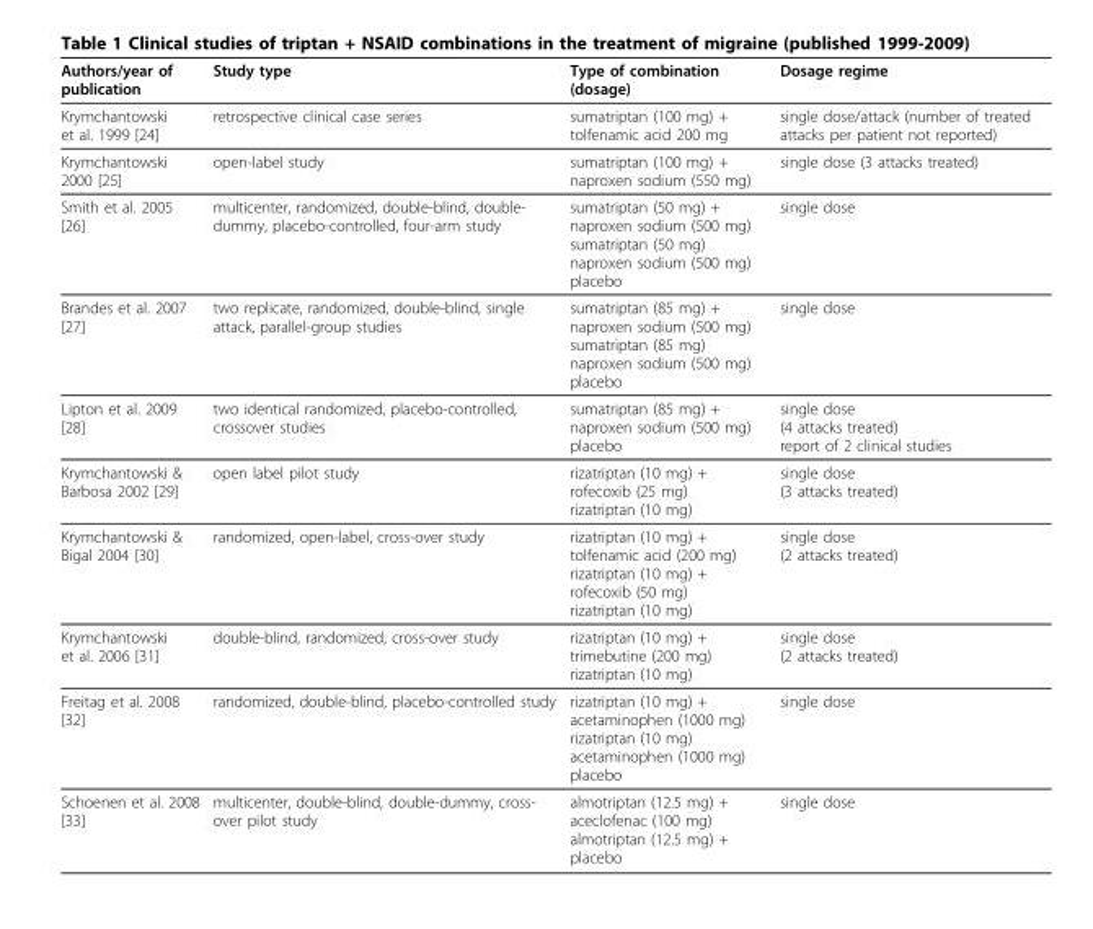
<table><thead><tr><td>Authors/year of publication</td><td>Study type</td><td>Type of combination (dosage)</td><td>Dosage regime</td></tr></thead><tbody><tr><td>Krymchantowski et al. 1999 [24]</td><td>retrospective clinical case series</td><td>sumatriptan (100 mg) + tolfenamic acid 200 mg</td><td>single dose/attack (number of treated attacks per patient not reported)</td></tr><tr><td>Krymchantowski 2000 [25]</td><td>open-label study</td><td>sumatriptan (100 mg) + naproxen sodium (550 mg)</td><td>single dose (3 attacks treated)</td></tr><tr><td>Smith et al. 2005 [26]</td><td>multicenter, randomized, double-blind, double- dummy, placebo-controlled, four-arm study</td><td>sumatriptan (50 mg) + naproxen sodium (500 mg) sumatriptan (50 mg) naproxen sodium (500 mg) placebo</td><td>single dose</td></tr><tr><td>Brandes et al. 2007 [27]</td><td>two replicate, randomized, double-blind, single attack, parallel-group studies</td><td>sumatriptan (85 mg) + naproxen sodium (500 mg) sumatriptan (85 mg) naproxen sodium (500 mg) placebo</td><td>single dose</td></tr><tr><td>Lipton et al. 2009 [28]</td><td>two identical randomized, placebo-controlled, crossover studies</td><td>sumatriptan (85 mg) + naproxen sodium (500 mg) placebo</td><td>single dose (4 attacks treated) report of 2 clinical studies</td></tr><tr><td>Krymchantowski &amp; Barbosa 2002 [29]</td><td>open label pilot study</td><td>rizatriptan (10 mg) + rofecoxib (25 mg) rizatriptan (10 mg)</td><td>single dose (3 attacks treated)</td></tr><tr><td>Krymchantowski &amp; Bigal 2004 [30]</td><td>randomized, open-label, cross-over study</td><td>rizatriptan (10 mg) + tolfenamic acid (200 mg) rizatriptan (10 mg) + rofecoxib (50 mg) rizatriptan (10 mg)</td><td>single dose (2 attacks treated)</td></tr><tr><td>Krymchantowski et al. 2006 [31]</td><td>double-blind, randomized, cross-over study</td><td>rizatriptan (10 mg) + trimebutine (200 mg) rizatriptan (10 mg)</td><td>single dose (2 attacks treated)</td></tr><tr><td>Freitag et al. 2008 [32]</td><td>randomized, double-blind, placebo-controlled study</td><td>rizatriptan (10 mg) + acetaminophen (1000 mg) rizatriptan (10 mg) acetaminophen (1000 mg) placebo</td><td>single dose</td></tr><tr><td>Schoenen et al. 2008 [33]</td><td>multicenter, double-blind, double-dummy, cross- over pilot study</td><td>almotriptan (12.5 mg) + aceclofenac (100 mg) almotriptan (12.5 mg) + placebo</td><td>single dose</td></tr></tbody></table>